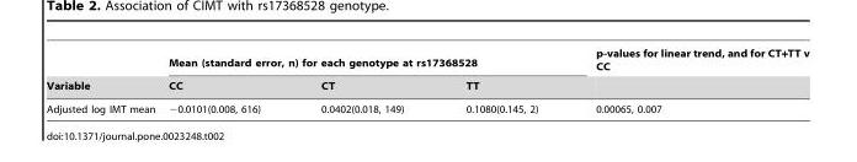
<table><thead><tr><td rowspan="2">Variable</td><td colspan="3">Mean (standard error, n) for each genotype at rs17368528</td><td rowspan="2">p-values for linear trend, and for CT+TT v CC</td></tr><tr><td>CC</td><td>CT</td><td>TT</td></tr></thead><tbody><tr><td>Adjusted log IMT mean</td><td>−0.0101(0.008, 616)</td><td>0.0402(0.018, 149)</td><td>0.1080(0.145, 2)</td><td>0.00065, 0.007</td></tr></tbody></table>